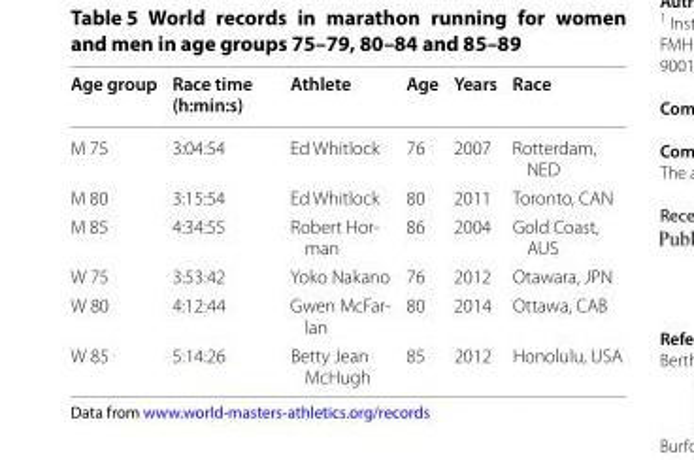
<table><thead><tr><td>Age group</td><td>Race time (h:min:s)</td><td>Athlete</td><td>Age</td><td>Years</td><td>Race</td></tr></thead><tbody><tr><td>M 75</td><td>3:04:54</td><td>Ed Whitlock</td><td>76</td><td>2007</td><td>Rotterdam, NED</td></tr><tr><td>M 80</td><td>3:15:54</td><td>Ed Whitlock</td><td>80</td><td>2011</td><td>Toronto, CAN</td></tr><tr><td>M 85</td><td>4:34:55</td><td>Robert Hor- man</td><td>86</td><td>2004</td><td>Gold Coast, AUS</td></tr><tr><td>W 75</td><td>3:53:42</td><td>Yoko Nakano</td><td>76</td><td>2012</td><td>Otawara, JPN</td></tr><tr><td>W 80</td><td>4:12:44</td><td>Gwen McFar- lan</td><td>80</td><td>2014</td><td>Ottawa, CAB</td></tr><tr><td>W 85</td><td>5:14:26</td><td>Betty Jean McHugh</td><td>85</td><td>2012</td><td>Honolulu, USA</td></tr></tbody></table>